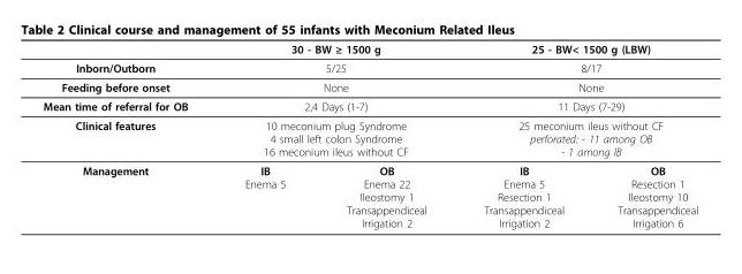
<table><thead><tr><td></td><td colspan="2">30 - BW ≥ 1500 g</td><td colspan="2">25 - BW&lt; 1500 g (LBW)</td></tr></thead><tbody><tr><td>Inborn/Outborn</td><td colspan="2">5/25</td><td colspan="2">8/17</td></tr><tr><td>Feeding before onset</td><td colspan="2">None</td><td colspan="2">None</td></tr><tr><td>Mean time of referral for OB</td><td colspan="2">2,4 Days (1-7)</td><td colspan="2">11 Days (7-29)</td></tr><tr><td>Clinical features</td><td colspan="2">10 meconium plug Syndrome 4 small left colon Syndrome 16 meconium ileus without CF</td><td colspan="2">25 meconium ileus without CF perforated: - 11 among OB - 1 among IB</td></tr><tr><td>Management</td><td>IB Enema 5</td><td>OB Enema 22 Ileostomy 1 Transappendiceal Irrigation 2</td><td>IB Enema 5 Resection 1 Transappendiceal Irrigation 2</td><td>OB Resection 1 Ileostomy 10 Transappendiceal Irrigation 6</td></tr></tbody></table>